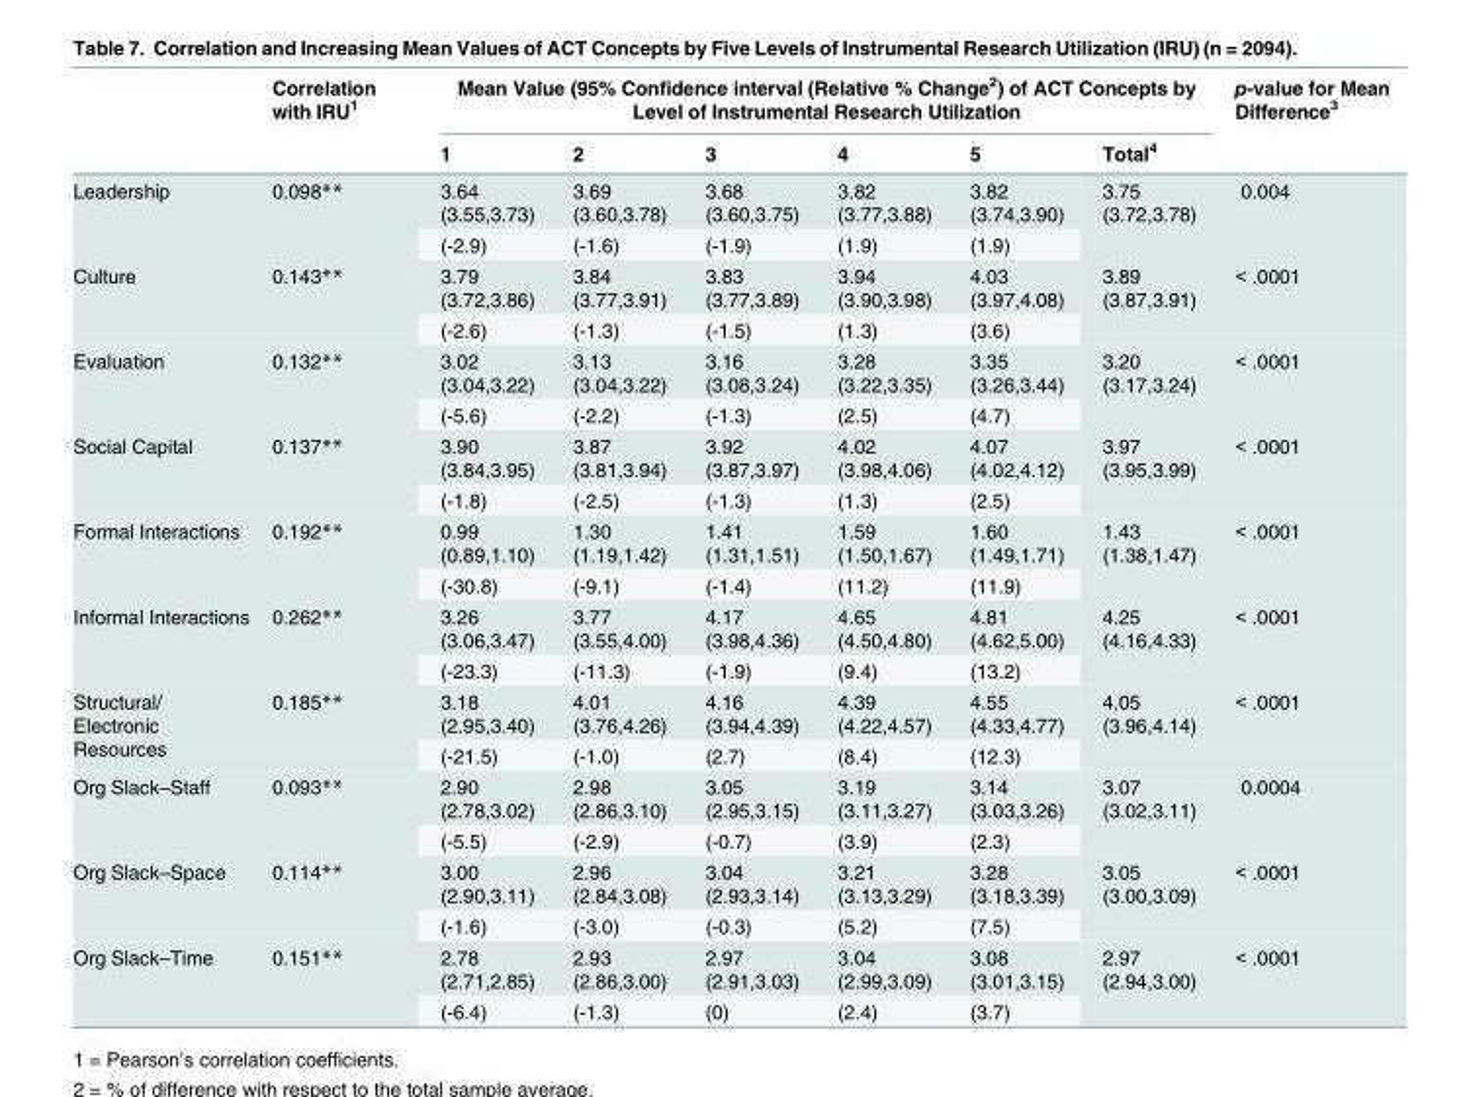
<table><thead><tr><td rowspan="2"></td><td rowspan="2">Correlation with IRU<sup>1</sup></td><td colspan="6">Mean Value (95% Confidence interval (Relative % Change<sup>2</sup>) of ACT Concepts by Level of Instrumental Research Utilization</td><td rowspan="2">p-value for Mean Difference<sup>3</sup></td></tr><tr><td>1</td><td>2</td><td>3</td><td>4</td><td>5</td><td>Total<sup>4</sup></td></tr></thead><tbody><tr><td rowspan="2">Leadership</td><td rowspan="2">0.098**</td><td>3.64 (3.55,3.73)</td><td>3.69 (3.60,3.78)</td><td>3.68 (3.60,3.75)</td><td>3.82 (3.77,3.88)</td><td>3.82 (3.74,3.90)</td><td rowspan="2">3.75 (3.72,3.78)</td><td rowspan="2">0.004</td></tr><tr><td>(-2.9)</td><td>(-1.6)</td><td>(-1.9)</td><td>(1.9)</td><td>(1.9)</td></tr><tr><td rowspan="2">Culture</td><td rowspan="2">0.143**</td><td>3.79 (3.72,3.86)</td><td>3.84 (3.77,3.91)</td><td>3.83 (3.77,3.89)</td><td>3.94 (3.90,3.98)</td><td>4.03 (3.97,4.08)</td><td rowspan="2">3.89 (3.87,3.91)</td><td rowspan="2">&lt; .0001</td></tr><tr><td>(-2.6)</td><td>(-1.3)</td><td>(-1.5)</td><td>(1.3)</td><td>(3.6)</td></tr><tr><td rowspan="2">Evaluation</td><td rowspan="2">0.132**</td><td>3.02 (3.04,3.22)</td><td>3.13 (3.04,3.22)</td><td>3.16 (3.08,3.24)</td><td>3.28 (3.22,3.35)</td><td>3.35 (3.26,3.44)</td><td rowspan="2">3.20 (3.17,3.24)</td><td rowspan="2">&lt; .0001</td></tr><tr><td>(-5.6)</td><td>(-2.2)</td><td>(-1.3)</td><td>(2.5)</td><td>(4.7)</td></tr><tr><td rowspan="2">Social Capital</td><td rowspan="2">0.137**</td><td>3.90 (3.84,3.95)</td><td>3.87 (3.81,3.94)</td><td>3.92 (3.87,3.97)</td><td>4.02 (3.98,4.06)</td><td>4.07 (4.02,4.12)</td><td rowspan="2">3.97 (3.95,3.99)</td><td rowspan="2">&lt; .0001</td></tr><tr><td>(-1.8)</td><td>(-2.5)</td><td>(-1.3)</td><td>(1.3)</td><td>(2.5)</td></tr><tr><td rowspan="2">Formal Interactions</td><td rowspan="2">0.192**</td><td>0.99 (0.89,1.10)</td><td>1.30 (1.19,1.42)</td><td>1.41 (1.31,1.51)</td><td>1.59 (1.50,1.67)</td><td>1.60 (1.49,1.71)</td><td rowspan="2">1.43 (1.38,1.47)</td><td rowspan="2">&lt; .0001</td></tr><tr><td>(-30.8)</td><td>(-9.1)</td><td>(-1.4)</td><td>(11.2)</td><td>(11.9)</td></tr><tr><td rowspan="2">Informal Interactions</td><td rowspan="2">0.262**</td><td>3.26 (3.06,3.47)</td><td>3.77 (3.55,4.00)</td><td>4.17 (3.98,4.36)</td><td>4.65 (4.50,4.80)</td><td>4.81 (4.62,5.00)</td><td rowspan="2">4.25 (4.16,4.33)</td><td rowspan="2">&lt; .0001</td></tr><tr><td>(-23.3)</td><td>(-11.3)</td><td>(-1.9)</td><td>(9.4)</td><td>(13.2)</td></tr><tr><td rowspan="2">Structural/ Electronic Resources</td><td rowspan="2">0.185**</td><td>3.18 (2.95,3.40)</td><td>4.01 (3.76,4.26)</td><td>4.16 (3.94,4.39)</td><td>4.39 (4.22,4.57)</td><td>4.55 (4.33,4.77)</td><td rowspan="2">4.05 (3.96,4.14)</td><td rowspan="2">&lt; .0001</td></tr><tr><td>(-21.5)</td><td>(-1.0)</td><td>(2.7)</td><td>(8.4)</td><td>(12.3)</td></tr><tr><td rowspan="2">Org Slack–Staff</td><td rowspan="2">0.093**</td><td>2.90 (2.78,3.02)</td><td>2.98 (2.86,3.10)</td><td>3.05 (2.95,3.15)</td><td>3.19 (3.11,3.27)</td><td>3.14 (3.03,3.26)</td><td rowspan="2">3.07 (3.02,3.11)</td><td rowspan="2">0.0004</td></tr><tr><td>(-5.5)</td><td>(-2.9)</td><td>(-0.7)</td><td>(3.9)</td><td>(2.3)</td></tr><tr><td rowspan="2">Org Slack–Space</td><td rowspan="2">0.114**</td><td>3.00 (2.90,3.11)</td><td>2.96 (2.84,3.08)</td><td>3.04 (2.93,3.14)</td><td>3.21 (3.13,3.29)</td><td>3.28 (3.18,3.39)</td><td rowspan="2">3.05 (3.00,3.09)</td><td rowspan="2">&lt; .0001</td></tr><tr><td>(-1.6)</td><td>(-3.0)</td><td>(-0.3)</td><td>(5.2)</td><td>(7.5)</td></tr><tr><td rowspan="2">Org Slack–Time</td><td rowspan="2">0.151**</td><td>2.78 (2.71,2.85)</td><td>2.93 (2.86,3.00)</td><td>2.97 (2.91,3.03)</td><td>3.04 (2.99,3.09)</td><td>3.08 (3.01,3.15)</td><td rowspan="2">2.97 (2.94,3.00)</td><td rowspan="2">&lt; .0001</td></tr><tr><td>(-6.4)</td><td>(-1.3)</td><td>(0)</td><td>(2.4)</td><td>(3.7)</td></tr></tbody></table>